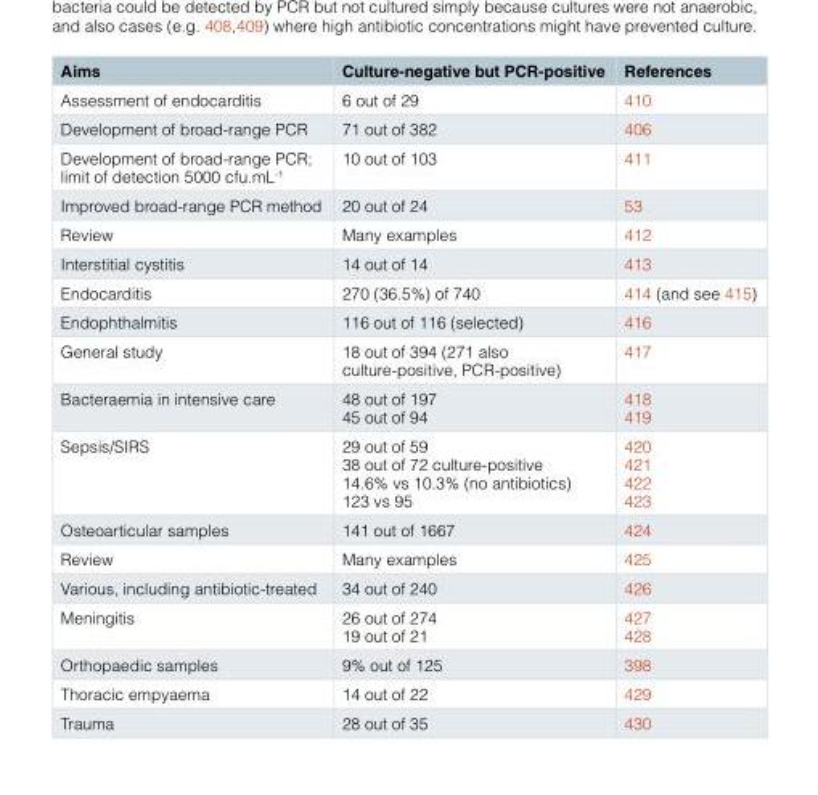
<table><thead><tr><td>Aims</td><td>Culture-negative but PCR-positive</td><td>References</td></tr></thead><tbody><tr><td>Assessment of endocarditis</td><td>6 out of 29</td><td>410</td></tr><tr><td>Development of broad-range PCR</td><td>71 out of 382</td><td>406</td></tr><tr><td>Development of broad-range PCR; limit of detection 5000 cfu.mL<sup>-1</sup></td><td>10 out of 103</td><td>411</td></tr><tr><td>Improved broad-range PCR method</td><td>20 out of 24</td><td>53</td></tr><tr><td>Review</td><td>Many examples</td><td>412</td></tr><tr><td>Interstitial cystitis</td><td>14 out of 14</td><td>413</td></tr><tr><td>Endocarditis</td><td>270 (36.5%) of 740</td><td>414 (and see 415)</td></tr><tr><td>Endophthalmitis</td><td>116 out of 116 (selected)</td><td>416</td></tr><tr><td>General study</td><td>18 out of 394 (271 also culture-positive, PCR-positive)</td><td>417</td></tr><tr><td>Bacteraemia in intensive care</td><td>48 out of 197 45 out of 94</td><td>418 419</td></tr><tr><td>Sepsis/SIRS</td><td>29 out of 59 38 out of 72 culture-positive 14.6% vs 10.3% (no antibiotics) 123 vs 95</td><td>420 421 422 423</td></tr><tr><td>Osteoarticular samples</td><td>141 out of 1667</td><td>424</td></tr><tr><td>Review</td><td>Many examples</td><td>425</td></tr><tr><td>Various, including antibiotic-treated</td><td>34 out of 240</td><td>426</td></tr><tr><td>Meningitis</td><td>26 out of 274 19 out of 21</td><td>427 428</td></tr><tr><td>Orthopaedic samples</td><td>9% out of 125</td><td>398</td></tr><tr><td>Thoracic empyaema</td><td>14 out of 22</td><td>429</td></tr><tr><td>Trauma</td><td>28 out of 35</td><td>430</td></tr></tbody></table>